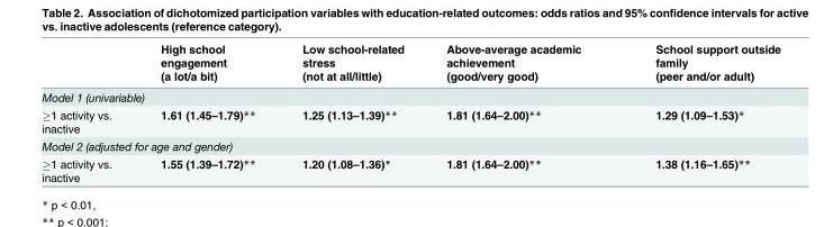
<table><thead><tr><td rowspan="2"></td><td rowspan="2">High school engagement (a lot/a bit)</td><td rowspan="2">Low school-related stress (not at all/little)</td><td rowspan="2">Above-average academic achievement (good/very good)</td><td rowspan="2">School support outside family (peer and/or adult)</td></tr><tr></tr></thead><tbody><tr><td colspan="5">Model 1 (univariable)</td></tr><tr><td>≥1 activity vs. inactive</td><td>1.61 (1.45–1.79)**</td><td>1.25 (1.13–1.39)**</td><td>1.81 (1.64–2.00)**</td><td>1.29 (1.09–1.53)*</td></tr><tr><td colspan="5">Model 2 (adjusted for age and gender)</td></tr><tr><td>≥1 activity vs. inactive</td><td>1.55 (1.39–1.72)**</td><td>1.20 (1.08–1.36)*</td><td>1.81 (1.64–2.00)**</td><td>1.38 (1.16–1.65)**</td></tr></tbody></table>